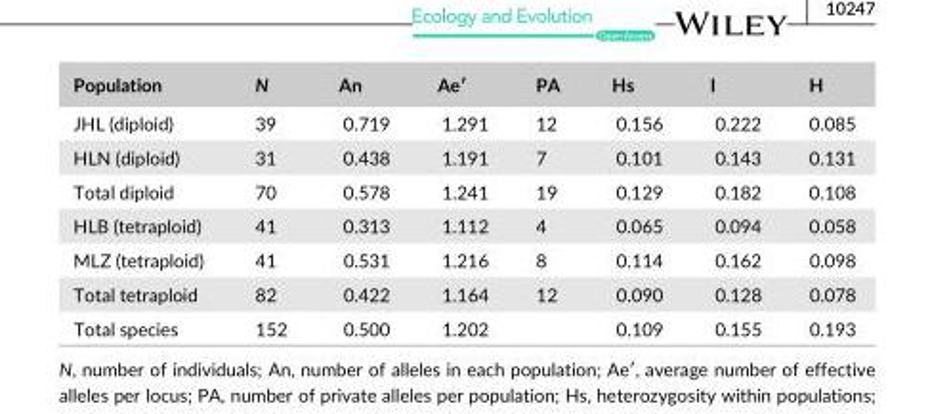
<table><thead><tr><td>Population</td><td>N</td><td>An</td><td>Ae′</td><td>PA</td><td>Hs</td><td>I</td><td>H</td></tr></thead><tbody><tr><td>JHL (diploid)</td><td>39</td><td>0.719</td><td>1.291</td><td>12</td><td>0.156</td><td>0.222</td><td>0.085</td></tr><tr><td>HLN (diploid)</td><td>31</td><td>0.438</td><td>1.191</td><td>7</td><td>0.101</td><td>0.143</td><td>0.131</td></tr><tr><td>Total diploid</td><td>70</td><td>0.578</td><td>1.241</td><td>19</td><td>0.129</td><td>0.182</td><td>0.108</td></tr><tr><td>HLB (tetraploid)</td><td>41</td><td>0.313</td><td>1.112</td><td>4</td><td>0.065</td><td>0.094</td><td>0.058</td></tr><tr><td>MLZ (tetraploid)</td><td>41</td><td>0.531</td><td>1.216</td><td>8</td><td>0.114</td><td>0.162</td><td>0.098</td></tr><tr><td>Total tetraploid</td><td>82</td><td>0.422</td><td>1.164</td><td>12</td><td>0.090</td><td>0.128</td><td>0.078</td></tr><tr><td>Total species</td><td>152</td><td>0.500</td><td>1.202</td><td></td><td>0.109</td><td>0.155</td><td>0.193</td></tr></tbody></table>